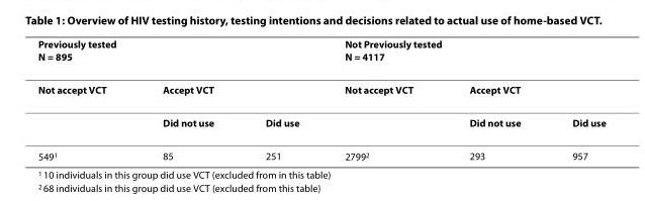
<table><thead><tr><td colspan="3">Previously tested N = 895</td><td colspan="3">Not Previously tested N = 4117</td></tr><tr><td rowspan="2">Not accept VCT</td><td colspan="2">Accept VCT</td><td rowspan="2">Not accept VCT</td><td colspan="2">Accept VCT</td></tr><tr><td>Did not use</td><td>Did use</td><td>Did not use</td><td>Did use</td></tr></thead><tbody><tr><td>549<sup>1</sup></td><td>85</td><td>251</td><td>2799<sup>2</sup></td><td>293</td><td>957</td></tr></tbody></table>